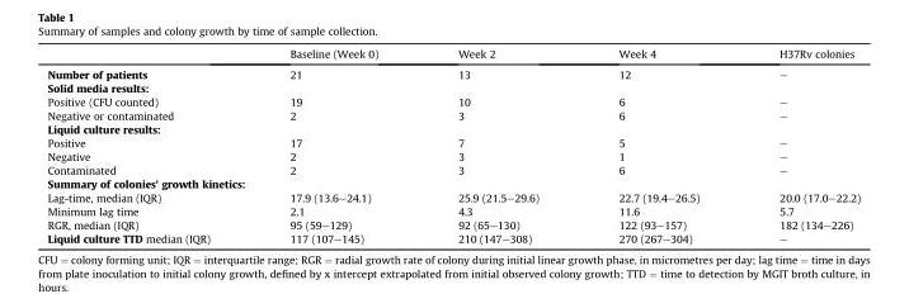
<table><thead><tr><td></td><td>Baseline (Week 0)</td><td>Week 2</td><td>Week 4</td><td>H37Rv colonies</td></tr></thead><tbody><tr><td>Number of patients</td><td>21</td><td>13</td><td>12</td><td>–</td></tr><tr><td colspan="5">Solid media results:</td></tr><tr><td>Positive (CFU counted)</td><td>19</td><td>10</td><td>6</td><td>–</td></tr><tr><td>Negative or contaminated</td><td>2</td><td>3</td><td>6</td><td>–</td></tr><tr><td colspan="5">Liquid culture results:</td></tr><tr><td>Positive</td><td>17</td><td>7</td><td>5</td><td>–</td></tr><tr><td>Negative</td><td>2</td><td>3</td><td>1</td><td>–</td></tr><tr><td>Contaminated</td><td>2</td><td>3</td><td>6</td><td>–</td></tr><tr><td colspan="5">Summary of colonies&#x27; growth kinetics:</td></tr><tr><td>Lag-time, median (IQR)</td><td>17.9 (13.6–24.1)</td><td>25.9 (21.5–29.6)</td><td>22.7 (19.4–26.5)</td><td>20.0 (17.0–22.2)</td></tr><tr><td>Minimum lag time</td><td>2.1</td><td>4.3</td><td>11.6</td><td>5.7</td></tr><tr><td>RGR, median (IQR)</td><td>95 (59–129)</td><td>92 (65–130)</td><td>122 (93–157)</td><td>182 (134–226)</td></tr><tr><td>Liquid culture TTD median (IQR)</td><td>117 (107–145)</td><td>210 (147–308)</td><td>270 (267–304)</td><td>–</td></tr></tbody></table>